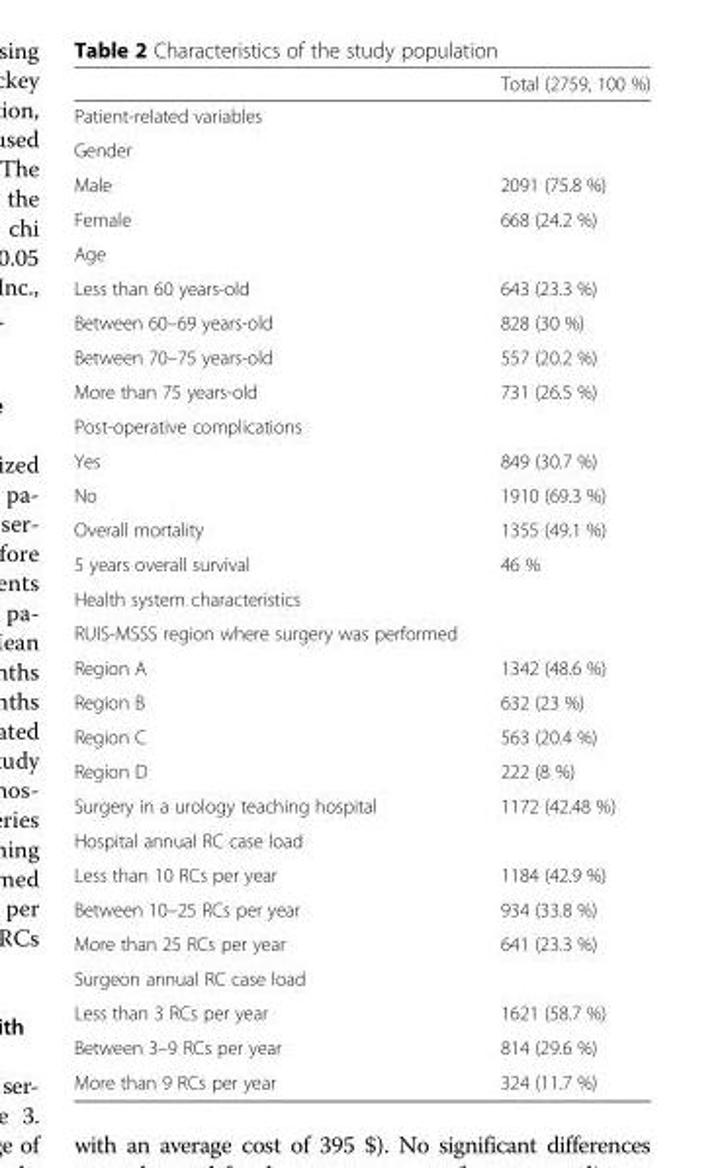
<table><thead><tr><td></td><td>Total (2759, 100 %)</td></tr></thead><tbody><tr><td colspan="2">Patient-related variables</td></tr><tr><td colspan="2">Gender</td></tr><tr><td>Male</td><td>2091 (75.8 %)</td></tr><tr><td>Female</td><td>668 (24.2 %)</td></tr><tr><td colspan="2">Age</td></tr><tr><td>Less than 60 years-old</td><td>643 (23.3 %)</td></tr><tr><td>Between 60–69 years-old</td><td>828 (30 %)</td></tr><tr><td>Between 70–75 years-old</td><td>557 (20.2 %)</td></tr><tr><td>More than 75 years-old</td><td>731 (26.5 %)</td></tr><tr><td colspan="2">Post-operative complications</td></tr><tr><td>Yes</td><td>849 (30.7 %)</td></tr><tr><td>No</td><td>1910 (69.3 %)</td></tr><tr><td>Overall mortality</td><td>1355 (49.1 %)</td></tr><tr><td>5 years overall survival</td><td>46 %</td></tr><tr><td colspan="2">Health system characteristics</td></tr><tr><td colspan="2">RUIS-MSSS region where surgery was performed</td></tr><tr><td>Region A</td><td>1342 (48.6 %)</td></tr><tr><td>Region B</td><td>632 (23 %)</td></tr><tr><td>Region C</td><td>563 (20.4 %)</td></tr><tr><td>Region D</td><td>222 (8 %)</td></tr><tr><td>Surgery in a urology teaching hospital</td><td>1172 (42.48 %)</td></tr><tr><td colspan="2">Hospital annual RC case load</td></tr><tr><td>Less than 10 RCs per year</td><td>1184 (42.9 %)</td></tr><tr><td>Between 10–25 RCs per year</td><td>934 (33.8 %)</td></tr><tr><td>More than 25 RCs per year</td><td>641 (23.3 %)</td></tr><tr><td colspan="2">Surgeon annual RC case load</td></tr><tr><td>Less than 3 RCs per year</td><td>1621 (58.7 %)</td></tr><tr><td>Between 3–9 RCs per year</td><td>814 (29.6 %)</td></tr><tr><td>More than 9 RCs per year</td><td>324 (11.7 %)</td></tr></tbody></table>